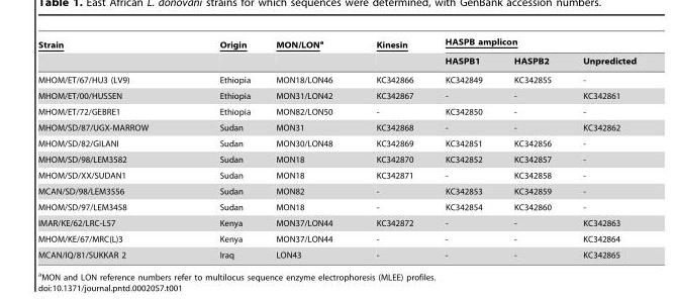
<table><thead><tr><td rowspan="2">Strain</td><td rowspan="2">Origin</td><td rowspan="2">MON/LONa</td><td rowspan="2">Kinesin</td><td colspan="3">HASPB amplicon</td></tr><tr><td>HASPB1</td><td>HASPB2</td><td>Unpredicted</td></tr></thead><tbody><tr><td>MHOM/ET/67/HU3 (LV9)</td><td>Ethiopia</td><td>MON18/LON46</td><td>KC342866</td><td>KC342849</td><td>KC342855</td><td>-</td></tr><tr><td>MHOM/ET/00/HUSSEN</td><td>Ethiopia</td><td>MON31/LON42</td><td>KC342867</td><td>-</td><td>-</td><td>KC342861</td></tr><tr><td>MHOM/ET/72/GEBRE1</td><td>Ethiopia</td><td>MON82/LON50</td><td>-</td><td>KC342850</td><td>-</td><td>-</td></tr><tr><td>MHOM/SD/87/UGX-MARROW</td><td>Sudan</td><td>MON31</td><td>KC342868</td><td>-</td><td>-</td><td>KC342862</td></tr><tr><td>MHOM/SD/82/GILANI</td><td>Sudan</td><td>MON30/LON48</td><td>KC342869</td><td>KC342851</td><td>KC342856</td><td>-</td></tr><tr><td>MHOM/SD/98/LEM3582</td><td>Sudan</td><td>MON18</td><td>KC342870</td><td>KC342852</td><td>KC342857</td><td>-</td></tr><tr><td>MHOM/SD/XX/SUDAN1</td><td>Sudan</td><td>MON18</td><td>KC342871</td><td>-</td><td>KC342858</td><td>-</td></tr><tr><td>MCAN/SD/98/LEM3556</td><td>Sudan</td><td>MON82</td><td>-</td><td>KC342853</td><td>KC342859</td><td>-</td></tr><tr><td>MHOM/SD/97/LEM3458</td><td>Sudan</td><td>MON18</td><td>-</td><td>KC342854</td><td>KC342860</td><td>-</td></tr><tr><td>IMAR/KE/62/LRC-L57</td><td>Kenya</td><td>MON37/LON44</td><td>KC342872</td><td>-</td><td>-</td><td>KC342863</td></tr><tr><td>MHOM/KE/67/MRC(L)3</td><td>Kenya</td><td>MON37/LON44</td><td>-</td><td>-</td><td>-</td><td>KC342864</td></tr><tr><td>MCAN/IQ/81/SUKKAR 2</td><td>Iraq</td><td>LON43</td><td>-</td><td>-</td><td>-</td><td>KC342865</td></tr></tbody></table>